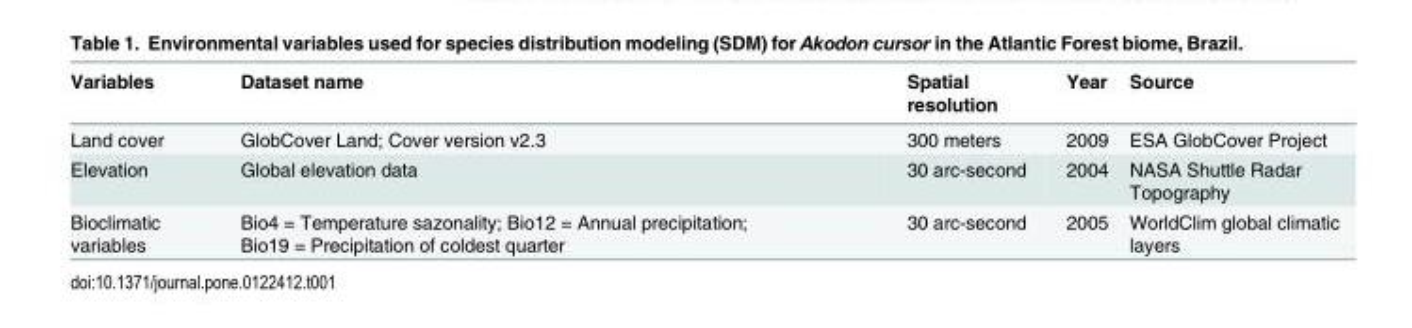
<table><thead><tr><td>Variables</td><td>Dataset name</td><td>Spatial resolution</td><td>Year</td><td>Source</td></tr></thead><tbody><tr><td>Land cover</td><td>GlobCover Land; Cover version v2.3</td><td>300 meters</td><td>2009</td><td>ESA GlobCover Project</td></tr><tr><td>Elevation</td><td>Global elevation data</td><td>30 arc-second</td><td>2004</td><td>NASA Shuttle Radar Topography</td></tr><tr><td>Bioclimatic variables</td><td>Bio4 = Temperature sazonality; Bio12 = Annual precipitation; Bio19 = Precipitation of coldest quarter</td><td>30 arc-second</td><td>2005</td><td>WorldClim global climatic layers</td></tr></tbody></table>